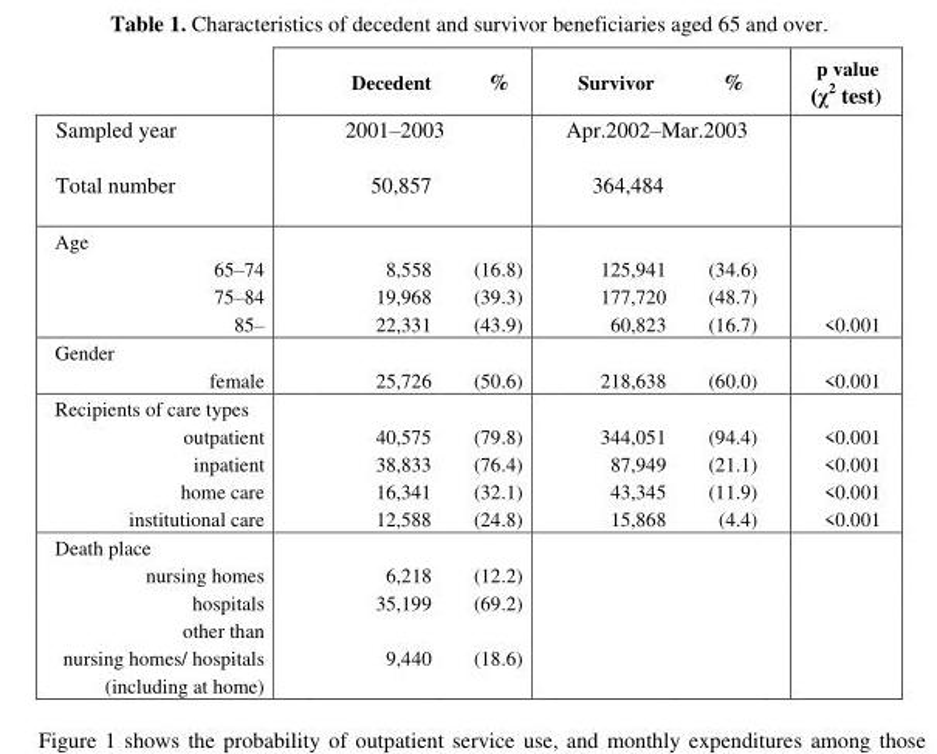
<table><thead><tr><td></td><td>Decedent</td><td>%</td><td>Survivor</td><td>%</td><td>p value (χ<sup>2</sup> test)</td></tr></thead><tbody><tr><td>Sampled year</td><td colspan="2">2001–2003</td><td colspan="2">Apr.2002–Mar.2003</td><td></td></tr><tr><td>Total number</td><td>50,857</td><td></td><td>364,484</td><td></td><td></td></tr><tr><td colspan="6">Age</td></tr><tr><td>65–74</td><td>8,558</td><td>(16.8)</td><td>125,941</td><td>(34.6)</td><td></td></tr><tr><td>75–84</td><td>19,968</td><td>(39.3)</td><td>177,720</td><td>(48.7)</td><td></td></tr><tr><td>85–</td><td>22,331</td><td>(43.9)</td><td>60,823</td><td>(16.7)</td><td>&lt;0.001</td></tr><tr><td colspan="6">Gender</td></tr><tr><td>female</td><td>25,726</td><td>(50.6)</td><td>218,638</td><td>(60.0)</td><td>&lt;0.001</td></tr><tr><td colspan="6">Recipients of care types</td></tr><tr><td>outpatient</td><td>40,575</td><td>(79.8)</td><td>344,051</td><td>(94.4)</td><td>&lt;0.001</td></tr><tr><td>inpatient</td><td>38,833</td><td>(76.4)</td><td>87,949</td><td>(21.1)</td><td>&lt;0.001</td></tr><tr><td>home care</td><td>16,341</td><td>(32.1)</td><td>43,345</td><td>(11.9)</td><td>&lt;0.001</td></tr><tr><td>institutional care</td><td>12,588</td><td>(24.8)</td><td>15,868</td><td>(4.4)</td><td>&lt;0.001</td></tr><tr><td colspan="6">Death place</td></tr><tr><td>nursing homes</td><td>6,218</td><td>(12.2)</td><td></td><td></td><td></td></tr><tr><td>hospitals</td><td>35,199</td><td>(69.2)</td><td></td><td></td><td></td></tr><tr><td>other than nursing homes/ hospitals (including at home)</td><td>9,440</td><td>(18.6)</td><td></td><td></td><td></td></tr></tbody></table>